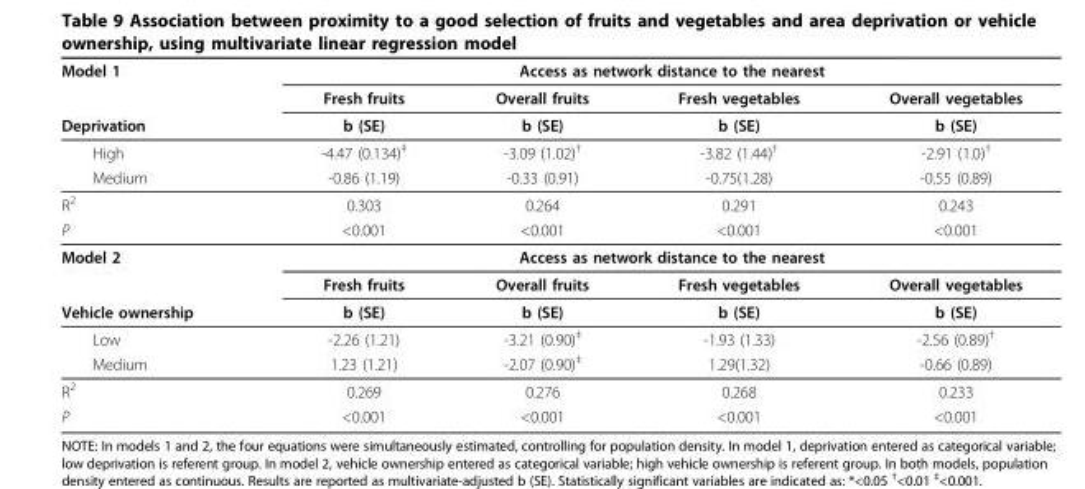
<table><thead><tr><td rowspan="3">Model 1 Deprivation</td><td colspan="4">Access as network distance to the nearest</td></tr><tr><td rowspan="2">Fresh fruits b (SE)</td><td rowspan="2">Overall fruits b (SE)</td><td rowspan="2">Fresh vegetables b (SE)</td><td rowspan="2">Overall vegetables b (SE)</td></tr><tr></tr></thead><tbody><tr><td>High</td><td>-4.47 (0.134)‡</td><td>-3.09 (1.02)†</td><td>-3.82 (1.44)†</td><td>-2.91 (1.0)†</td></tr><tr><td>Medium</td><td>-0.86 (1.19)</td><td>-0.33 (0.91)</td><td>-0.75(1.28)</td><td>-0.55 (0.89)</td></tr><tr><td>R2</td><td>0.303</td><td>0.264</td><td>0.291</td><td>0.243</td></tr><tr><td>P</td><td>&lt;0.001</td><td>&lt;0.001</td><td>&lt;0.001</td><td>&lt;0.001</td></tr><tr><td rowspan="2">Model 2</td><td colspan="4">Access as network distance to the nearest</td></tr><tr><td>Fresh fruits</td><td>Overall fruits</td><td>Fresh vegetables</td><td>Overall vegetables</td></tr><tr><td>Vehicle ownership</td><td>b (SE)</td><td>b (SE)</td><td>b (SE)</td><td>b (SE)</td></tr><tr><td>Low</td><td>-2.26 (1.21)</td><td>-3.21 (0.90)‡</td><td>-1.93 (1.33)</td><td>-2.56 (0.89)†</td></tr><tr><td>Medium</td><td>1.23 (1.21)</td><td>-2.07 (0.90)‡</td><td>1.29(1.32)</td><td>-0.66 (0.89)</td></tr><tr><td>R2</td><td>0.269</td><td>0.276</td><td>0.268</td><td>0.233</td></tr><tr><td>P</td><td>&lt;0.001</td><td>&lt;0.001</td><td>&lt;0.001</td><td>&lt;0.001</td></tr></tbody></table>